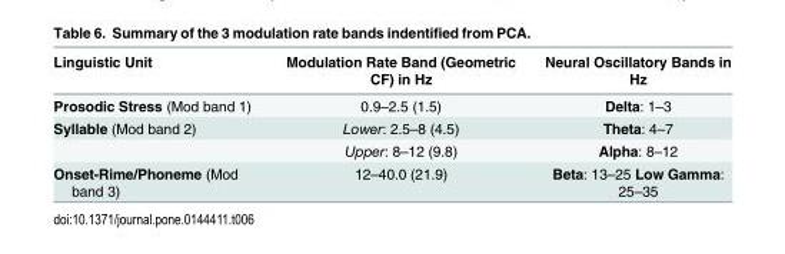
<table><thead><tr><td>Linguistic Unit</td><td>Modulation Rate Band (Geometric CF) in Hz</td><td>Neural Oscillatory Bands in Hz</td></tr></thead><tbody><tr><td>Prosodic Stress (Mod band 1)</td><td>0.9–2.5 (1.5)</td><td>Delta: 1–3</td></tr><tr><td rowspan="2">Syllable (Mod band 2)</td><td>Lower: 2.5–8 (4.5)</td><td>Theta: 4–7</td></tr><tr><td>Upper: 8–12 (9.8)</td><td>Alpha: 8–12</td></tr><tr><td>Onset-Rime/Phoneme (Mod band 3)</td><td>12–40.0 (21.9)</td><td>Beta: 13–25 Low Gamma: 25–35</td></tr></tbody></table>